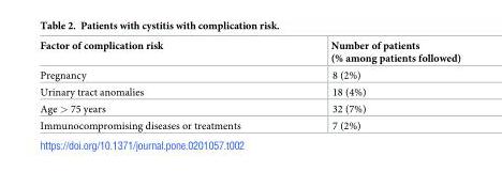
<table><thead><tr><td>Factor of complication risk</td><td>Number of patients (% among patients followed)</td></tr></thead><tbody><tr><td>Pregnancy</td><td>8 (2%)</td></tr><tr><td>Urinary tract anomalies</td><td>18 (4%)</td></tr><tr><td>Age &gt; 75 years</td><td>32 (7%)</td></tr><tr><td>Immunocompromising diseases or treatments</td><td>7 (2%)</td></tr></tbody></table>